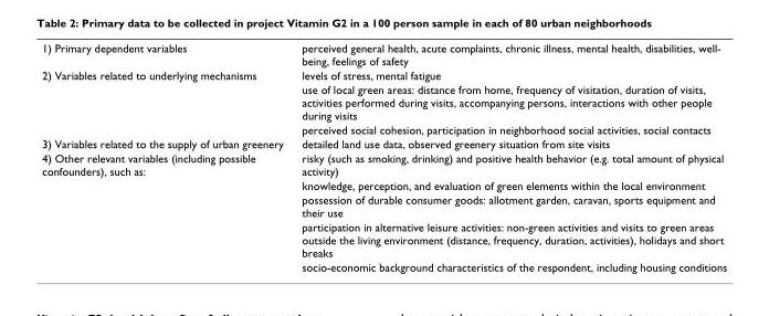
<table><tbody><tr><td>1) Primary dependent variables</td><td>perceived general health, acute complaints, chronic illness, mental health, disabilities, well- being, feelings of safety</td></tr><tr><td rowspan="3">2) Variables related to underlying mechanisms</td><td>levels of stress, mental fatigue</td></tr><tr><td>use of local green areas: distance from home, frequency of visitation, duration of visits, activities performed during visits, accompanying persons, interactions with other people during visits</td></tr><tr><td>perceived social cohesion, participation in neighborhood social activities, social contacts</td></tr><tr><td>3) Variables related to the supply of urban greenery</td><td>detailed land use data, observed greenery situation from site visits</td></tr><tr><td rowspan="5">4) Other relevant variables (including possible confounders), such as:</td><td>risky (such as smoking, drinking) and positive health behavior (e.g. total amount of physical activity)</td></tr><tr><td>knowledge, perception, and evaluation of green elements within the local environment</td></tr><tr><td>possession of durable consumer goods: allotment garden, caravan, sports equipment and their use</td></tr><tr><td>participation in alternative leisure activities: non-green activities and visits to green areas outside the living environment (distance, frequency, duration, activities), holidays and short breaks</td></tr><tr><td>socio-economic background characteristics of the respondent, including housing conditions</td></tr></tbody></table>